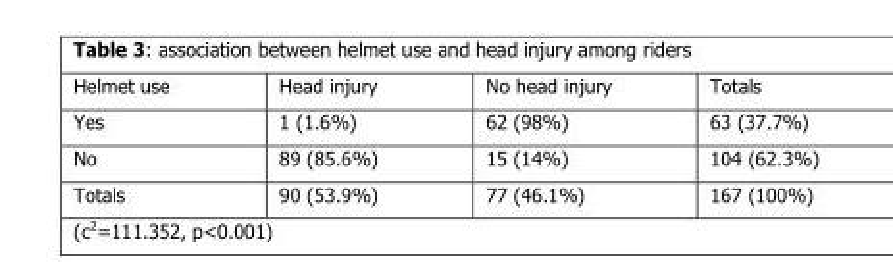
<table><thead><tr><td>Helmet use</td><td>Head injury</td><td>No head injury</td><td>Totals</td></tr></thead><tbody><tr><td>Yes</td><td>1 (1.6%)</td><td>62 (98%)</td><td>63 (37.7%)</td></tr><tr><td>No</td><td>89 (85.6%)</td><td>15 (14%)</td><td>104 (62.3%)</td></tr><tr><td>Totals</td><td>90 (53.9%)</td><td>77 (46.1%)</td><td>167 (100%)</td></tr></tbody></table>